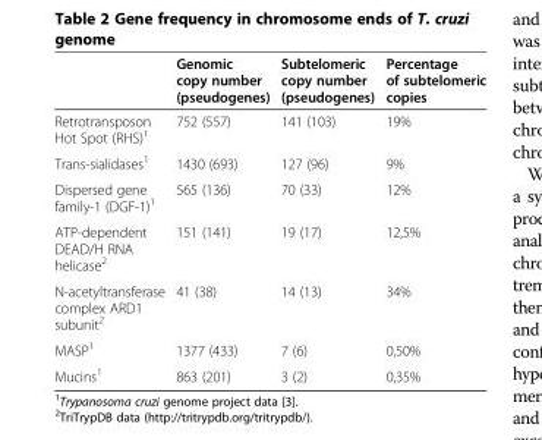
<table><thead><tr><td></td><td>Genomic copy number (pseudogenes)</td><td>Subtelomeric copy number (pseudogenes)</td><td>Percentage of subtelomeric copies</td></tr></thead><tbody><tr><td>Retrotransposon Hot Spot (RHS)<sup>1</sup></td><td>752 (557)</td><td>141 (103)</td><td>19%</td></tr><tr><td>Trans-sialidases<sup>1</sup></td><td>1430 (693)</td><td>127 (96)</td><td>9%</td></tr><tr><td>Dispersed gene family-1 (DGF-1)<sup>1</sup></td><td>565 (136)</td><td>70 (33)</td><td>12%</td></tr><tr><td>ATP-dependent DEAD/H RNA helicase<sup>2</sup></td><td>151 (141)</td><td>19 (17)</td><td>12,5%</td></tr><tr><td>N-acetyltransferase complex ARD1 subunit<sup>2</sup></td><td>41 (38)</td><td>14 (13)</td><td>34%</td></tr><tr><td>MASP<sup>1</sup></td><td>1377 (433)</td><td>7 (6)</td><td>0,50%</td></tr><tr><td>Mucins<sup>1</sup></td><td>863 (201)</td><td>3 (2)</td><td>0,35%</td></tr></tbody></table>